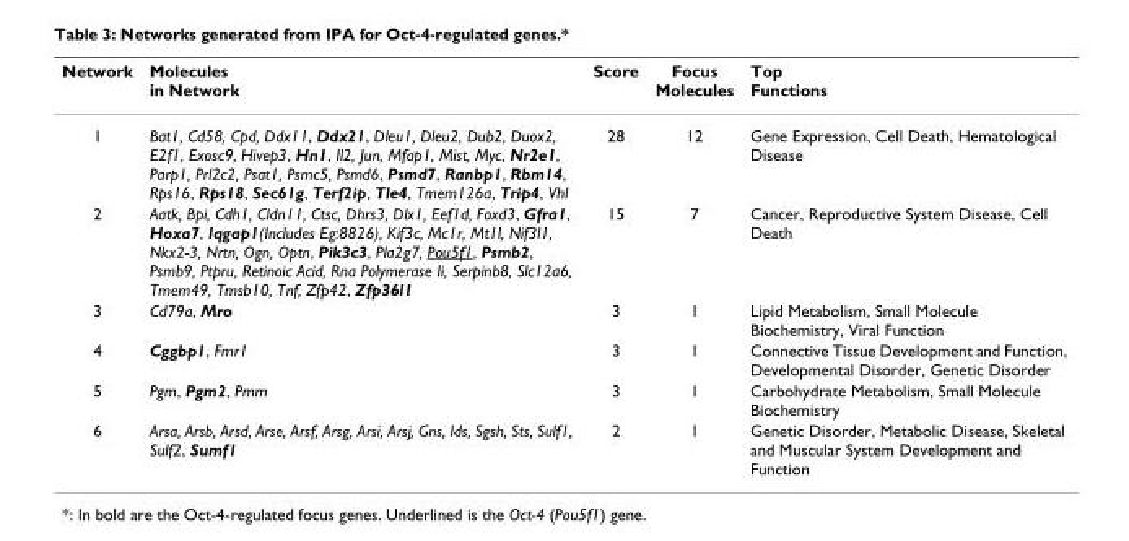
<table><thead><tr><td>Network</td><td>Molecules in Network</td><td>Score</td><td>Focus Molecules</td><td>Top Functions</td></tr></thead><tbody><tr><td>1</td><td>Bat1, Cd58, Cpd, Ddx11, Ddx21, Dleu1, Dleu2, Dub2, Duox2, E2f1, Exosc9, Hivep3, Hn1, Il2, Jun, Mfap1, Mist, Myc, Nr2e1, Parp1, Prl2c2, Psat1, Psmc5, Psmd6, Psmd7, Ranbp1, Rbm14, Rps16, Rps18, Sec61g, Terf2ip, Tle4, Tmem126a, Trip4, Vhl</td><td>28</td><td>12</td><td>Gene Expression, Cell Death, Hematological Disease</td></tr><tr><td>2</td><td>Aatk, Bpi, Cdh1, Cldn11, Ctsc, Dhrs3, Dlx1, Eef1d, Foxd3, Gfra1, Hoxa7, Iqgap1(Includes Eg:8826), Kif3c, Mc1r, Mt1l, Nif3l1, Nkx2-3, Nrtn, Ogn, Optn, Pik3c3, Pla2g7, Pou5f1, Psmb2, Psmb9, Ptpru, Retinoic Acid, Rna Polymerase Ii, Serpinb8, Slc12a6, Tmem49, Tmsb10, Tnf, Zfp42, Zfp36l1</td><td>15</td><td>7</td><td>Cancer, Reproductive System Disease, Cell Death</td></tr><tr><td>3</td><td>Cd79a, Mro</td><td>3</td><td>1</td><td>Lipid Metabolism, Small Molecule Biochemistry, Viral Function</td></tr><tr><td>4</td><td>Cggbp1, Fmr1</td><td>3</td><td>1</td><td>Connective Tissue Development and Function, Developmental Disorder, Genetic Disorder</td></tr><tr><td>5</td><td>Pgm, Pgm2, Pmm</td><td>3</td><td>1</td><td>Carbohydrate Metabolism, Small Molecule Biochemistry</td></tr><tr><td>6</td><td>Arsa, Arsb, Arsd, Arse, Arsf, Arsg, Arsi, Arsj, Gns, Ids, Sgsh, Sts, Sulf1, Sulf2, Sumf1</td><td>2</td><td>1</td><td>Genetic Disorder, Metabolic Disease, Skeletal and Muscular System Development and Function</td></tr></tbody></table>